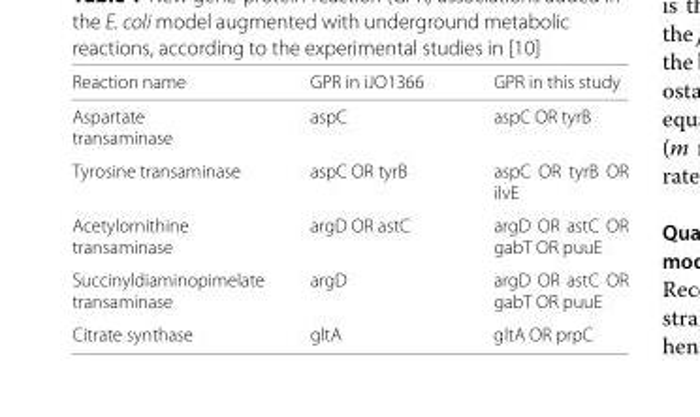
<table><thead><tr><td>Reaction name</td><td>GPR in iJO1366</td><td>GPR in this study</td></tr></thead><tbody><tr><td>Aspartate transaminase</td><td>aspC</td><td>aspC OR tyrB</td></tr><tr><td>Tyrosine transaminase</td><td>aspC OR tyrB</td><td>aspC OR tyrB OR ilvE</td></tr><tr><td>Acetylornithine transaminase</td><td>argD OR astC</td><td>argD OR astC OR gabT OR puuE</td></tr><tr><td>Succinyldiaminopimelate transaminase</td><td>argD</td><td>argD OR astC OR gabT OR puuE</td></tr><tr><td>Citrate synthase</td><td>gltA</td><td>gltA OR prpC</td></tr></tbody></table>